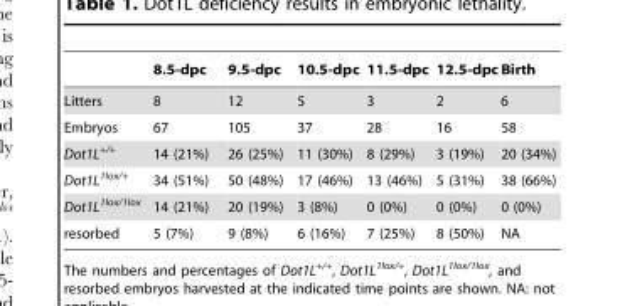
<table><thead><tr><td></td><td>8.5-dpc</td><td>9.5-dpc</td><td>10.5-dpc</td><td>11.5-dpc</td><td>12.5-dpc</td><td>Birth</td></tr></thead><tbody><tr><td>Litters</td><td>8</td><td>12</td><td>5</td><td>3</td><td>2</td><td>6</td></tr><tr><td>Embryos</td><td>67</td><td>105</td><td>37</td><td>28</td><td>16</td><td>58</td></tr><tr><td>Dot1L<sup>+/+</sup></td><td>14 (21%)</td><td>26 (25%)</td><td>11 (30%)</td><td>8 (29%)</td><td>3 (19%)</td><td>20 (34%)</td></tr><tr><td>Dot1L<sup>1lox/+</sup></td><td>34 (51%)</td><td>50 (48%)</td><td>17 (46%)</td><td>13 (46%)</td><td>5 (31%)</td><td>38 (66%)</td></tr><tr><td>Dot1L<sup>1lox/1lox</sup></td><td>14 (21%)</td><td>20 (19%)</td><td>3 (8%)</td><td>0 (0%)</td><td>0 (0%)</td><td>0 (0%)</td></tr><tr><td>resorbed</td><td>5 (7%)</td><td>9 (8%)</td><td>6 (16%)</td><td>7 (25%)</td><td>8 (50%)</td><td>NA</td></tr></tbody></table>